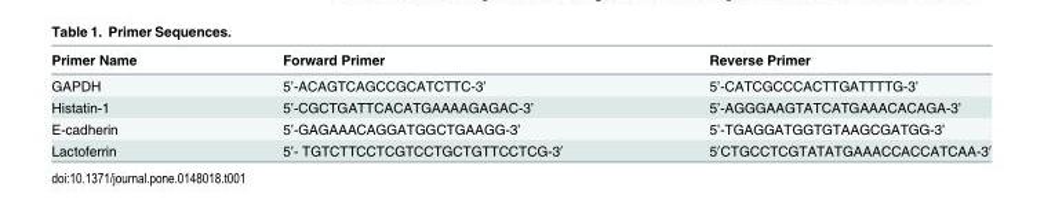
<table><thead><tr><td>Primer Name</td><td>Forward Primer</td><td>Reverse Primer</td></tr></thead><tbody><tr><td>GAPDH</td><td>5’-ACAGTCAGCCGCATCTTC-3’</td><td>5’-CATCGCCCACTTGATTTTG-3’</td></tr><tr><td>Histatin-1</td><td>5’-CGCTGATTCACATGAAAAGAGAC-3’</td><td>5’-AGGGAAGTATCATGAAACACAGA-3’</td></tr><tr><td>E-cadherin</td><td>5’-GAGAAACAGGATGGCTGAAGG-3’</td><td>5’-TGAGGATGGTGTAAGCGATGG-3’</td></tr><tr><td>Lactoferrin</td><td>5’- TGTCTTCCTCGTCCTGCTGTTCCTCG-3′</td><td>5′CTGCCTCGTATATGAAACCACCATCAA-3′</td></tr></tbody></table>